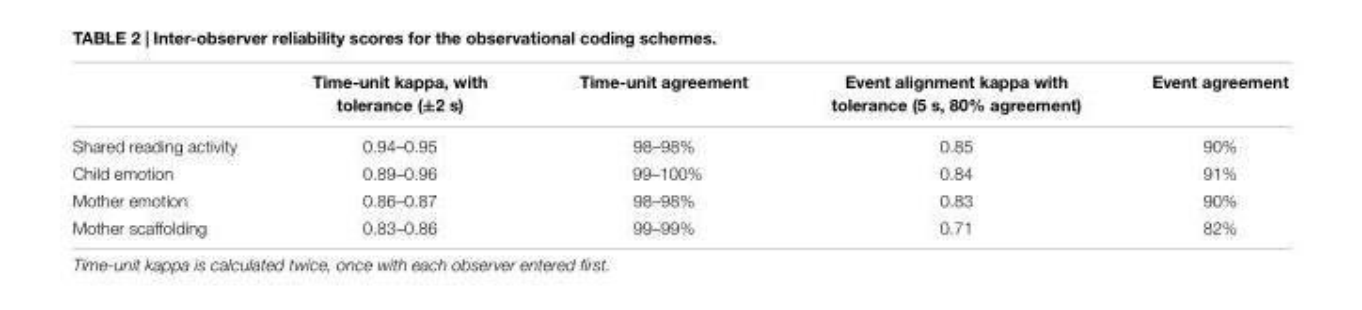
<table><thead><tr><td></td><td>Time-unit kappa, with tolerance (±2 s)</td><td>Time-unit agreement</td><td>Event alignment kappa with tolerance (5 s, 80% agreement)</td><td>Event agreement</td></tr></thead><tbody><tr><td>Shared reading activity</td><td>0.94–0.95</td><td>98–98%</td><td>0.85</td><td>90%</td></tr><tr><td>Child emotion</td><td>0.89–0.96</td><td>99–100%</td><td>0.84</td><td>91%</td></tr><tr><td>Mother emotion</td><td>0.86–0.87</td><td>98–98%</td><td>0.83</td><td>90%</td></tr><tr><td>Mother scaffolding</td><td>0.83–0.86</td><td>99–99%</td><td>0.71</td><td>82%</td></tr></tbody></table>